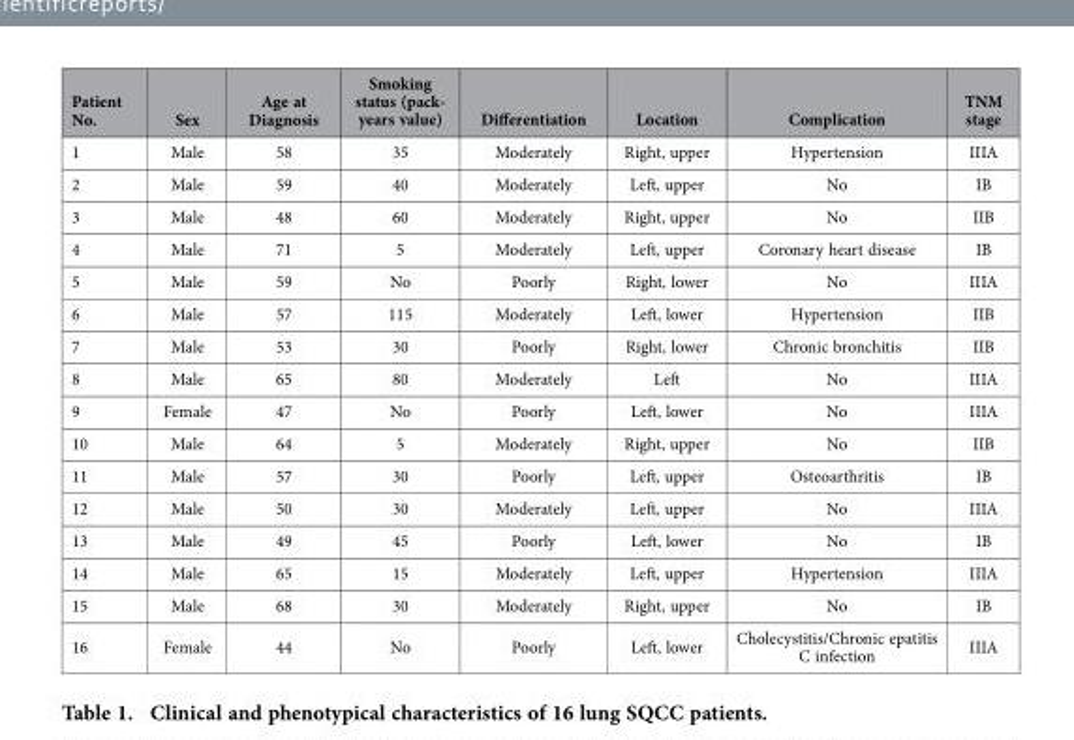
<table><thead><tr><td>Patient No.</td><td>Sex</td><td>Age at Diagnosis</td><td>Smoking status (pack- years value)</td><td>Differentiation</td><td>Location</td><td>Complication</td><td>TNM stage</td></tr></thead><tbody><tr><td>1</td><td>Male</td><td>58</td><td>35</td><td>Moderately</td><td>Right, upper</td><td>Hypertension</td><td>IIIA</td></tr><tr><td>2</td><td>Male</td><td>59</td><td>40</td><td>Moderately</td><td>Left, upper</td><td>No</td><td>IB</td></tr><tr><td>3</td><td>Male</td><td>48</td><td>60</td><td>Moderately</td><td>Right, upper</td><td>No</td><td>IIB</td></tr><tr><td>4</td><td>Male</td><td>71</td><td>5</td><td>Moderately</td><td>Left, upper</td><td>Coronary heart disease</td><td>IB</td></tr><tr><td>5</td><td>Male</td><td>59</td><td>No</td><td>Poorly</td><td>Right, lower</td><td>No</td><td>IIIA</td></tr><tr><td>6</td><td>Male</td><td>57</td><td>115</td><td>Moderately</td><td>Left, lower</td><td>Hypertension</td><td>IIB</td></tr><tr><td>7</td><td>Male</td><td>53</td><td>30</td><td>Poorly</td><td>Right, lower</td><td>Chronic bronchitis</td><td>IIB</td></tr><tr><td>8</td><td>Male</td><td>65</td><td>80</td><td>Moderately</td><td>Left</td><td>No</td><td>IIIA</td></tr><tr><td>9</td><td>Female</td><td>47</td><td>No</td><td>Poorly</td><td>Left, lower</td><td>No</td><td>IIIA</td></tr><tr><td>10</td><td>Male</td><td>64</td><td>5</td><td>Moderately</td><td>Right, upper</td><td>No</td><td>IIB</td></tr><tr><td>11</td><td>Male</td><td>57</td><td>30</td><td>Poorly</td><td>Left, upper</td><td>Osteoarthritis</td><td>IB</td></tr><tr><td>12</td><td>Male</td><td>50</td><td>30</td><td>Moderately</td><td>Left, upper</td><td>No</td><td>IIIA</td></tr><tr><td>13</td><td>Male</td><td>49</td><td>45</td><td>Poorly</td><td>Left, lower</td><td>No</td><td>IB</td></tr><tr><td>14</td><td>Male</td><td>65</td><td>15</td><td>Moderately</td><td>Left, upper</td><td>Hypertension</td><td>IIIA</td></tr><tr><td>15</td><td>Male</td><td>68</td><td>30</td><td>Moderately</td><td>Right, upper</td><td>No</td><td>IB</td></tr><tr><td>16</td><td>Female</td><td>44</td><td>No</td><td>Poorly</td><td>Left, lower</td><td>Cholecystitis/Chronic epatitis C infection</td><td>IIIA</td></tr></tbody></table>